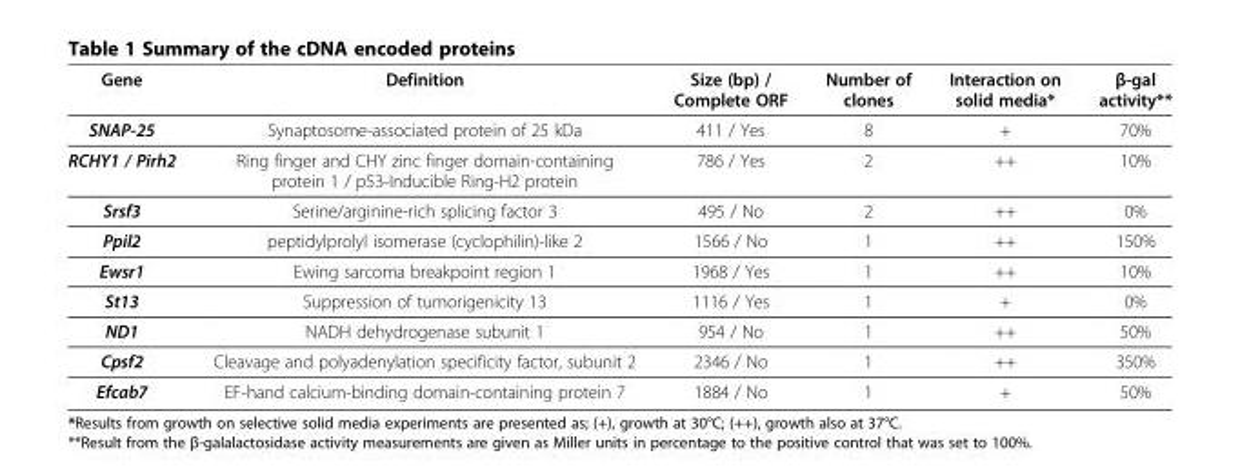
<table><thead><tr><td>Gene</td><td>Definition</td><td>Size (bp) / Complete ORF</td><td>Number of clones</td><td>Interaction on solid media*</td><td>β-gal activity**</td></tr></thead><tbody><tr><td>SNAP-25</td><td>Synaptosome-associated protein of 25 kDa</td><td>411 / Yes</td><td>8</td><td>+</td><td>70%</td></tr><tr><td>RCHY1 / Pirh2</td><td>Ring finger and CHY zinc finger domain-containing protein 1 / p53-Inducible Ring-H2 protein</td><td>786 / Yes</td><td>2</td><td>++</td><td>10%</td></tr><tr><td>Srsf3</td><td>Serine/arginine-rich splicing factor 3</td><td>495 / No</td><td>2</td><td>++</td><td>0%</td></tr><tr><td>Ppil2</td><td>peptidylprolyl isomerase (cyclophilin)-like 2</td><td>1566 / No</td><td>1</td><td>++</td><td>150%</td></tr><tr><td>Ewsr1</td><td>Ewing sarcoma breakpoint region 1</td><td>1968 / Yes</td><td>1</td><td>++</td><td>10%</td></tr><tr><td>St13</td><td>Suppression of tumorigenicity 13</td><td>1116 / Yes</td><td>1</td><td>+</td><td>0%</td></tr><tr><td>ND1</td><td>NADH dehydrogenase subunit 1</td><td>954 / No</td><td>1</td><td>++</td><td>50%</td></tr><tr><td>Cpsf2</td><td>Cleavage and polyadenylation specificity factor, subunit 2</td><td>2346 / No</td><td>1</td><td>++</td><td>350%</td></tr><tr><td>Efcab7</td><td>EF-hand calcium-binding domain-containing protein 7</td><td>1884 / No</td><td>1</td><td>+</td><td>50%</td></tr></tbody></table>